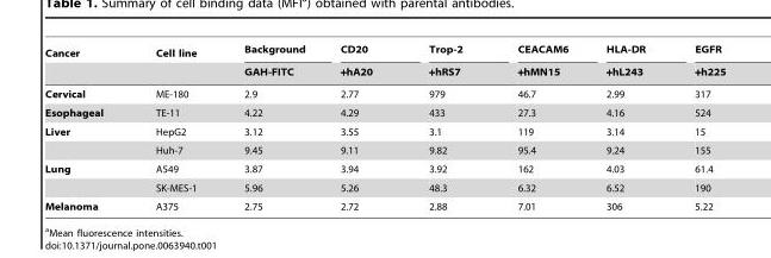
<table><thead><tr><td rowspan="2">Cancer</td><td rowspan="2">Cell line</td><td rowspan="2">Background GAH-FITC</td><td rowspan="2">CD20 +hA20</td><td rowspan="2">Trop-2 +hRS7</td><td rowspan="2">CEACAM6 +hMN15</td><td rowspan="2">HLA-DR +hL243</td><td rowspan="2">EGFR +h225</td></tr><tr></tr></thead><tbody><tr><td>Cervical</td><td>ME-180</td><td>2.9</td><td>2.77</td><td>979</td><td>46.7</td><td>2.99</td><td>317</td></tr><tr><td>Esophageal</td><td>TE-11</td><td>4.22</td><td>4.29</td><td>433</td><td>27.3</td><td>4.16</td><td>524</td></tr><tr><td rowspan="2">Liver</td><td>HepG2</td><td>3.12</td><td>3.55</td><td>3.1</td><td>119</td><td>3.14</td><td>15</td></tr><tr><td>Huh-7</td><td>9.45</td><td>9.11</td><td>9.82</td><td>95.4</td><td>9.24</td><td>155</td></tr><tr><td rowspan="2">Lung</td><td>A549</td><td>3.87</td><td>3.94</td><td>3.92</td><td>162</td><td>4.03</td><td>61.4</td></tr><tr><td>SK-MES-1</td><td>5.96</td><td>5.26</td><td>48.3</td><td>6.32</td><td>6.52</td><td>190</td></tr><tr><td>Melanoma</td><td>A375</td><td>2.75</td><td>2.72</td><td>2.88</td><td>7.01</td><td>306</td><td>5.22</td></tr></tbody></table>